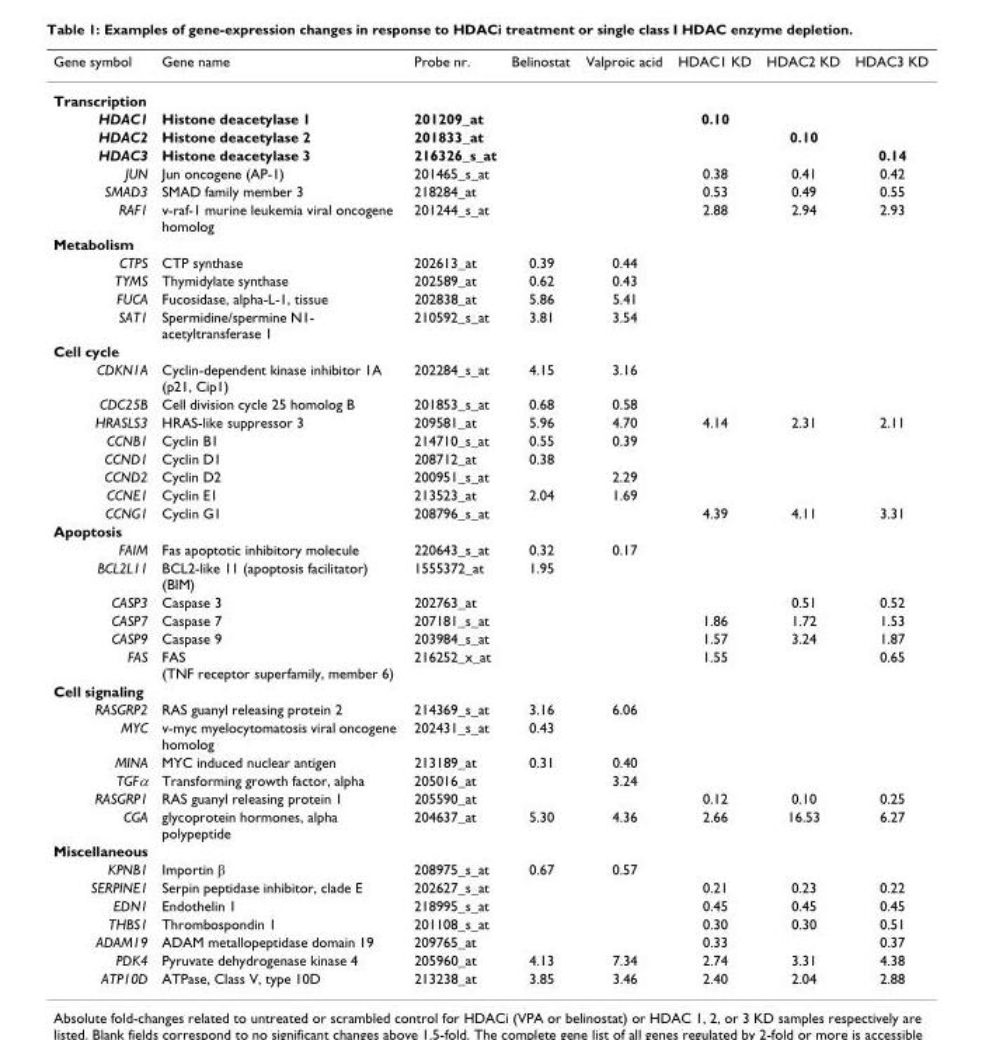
<table><thead><tr><td>Gene symbol</td><td>Gene name</td><td>Probe nr.</td><td>Belinostat</td><td>Valproic acid</td><td>HDAC1 KD</td><td>HDAC2 KD</td><td>HDAC3 KD</td></tr></thead><tbody><tr><td colspan="8">Transcription</td></tr><tr><td>HDAC1</td><td>Histone deacetylase 1</td><td>201209_at</td><td></td><td></td><td>0.10</td><td></td><td></td></tr><tr><td>HDAC2</td><td>Histone deacetylase 2</td><td>201833_at</td><td></td><td></td><td></td><td>0.10</td><td></td></tr><tr><td>HDAC3</td><td>Histone deacetylase 3</td><td>216326_s_at</td><td></td><td></td><td></td><td></td><td>0.14</td></tr><tr><td>JUN</td><td>Jun oncogene (AP-1)</td><td>201465_s_at</td><td></td><td></td><td>0.38</td><td>0.41</td><td>0.42</td></tr><tr><td>SMAD3</td><td>SMAD family member 3</td><td>218284_at</td><td></td><td></td><td>0.53</td><td>0.49</td><td>0.55</td></tr><tr><td>RAF1</td><td>v-raf-1 murine leukemia viral oncogene homolog</td><td>201244_s_at</td><td></td><td></td><td>2.88</td><td>2.94</td><td>2.93</td></tr><tr><td colspan="8">Metabolism</td></tr><tr><td>CTPS</td><td>CTP synthase</td><td>202613_at</td><td>0.39</td><td>0.44</td><td></td><td></td><td></td></tr><tr><td>TYMS</td><td>Thymidylate synthase</td><td>202589_at</td><td>0.62</td><td>0.43</td><td></td><td></td><td></td></tr><tr><td>FUCA</td><td>Fucosidase, alpha-L-1, tissue</td><td>202838_at</td><td>5.86</td><td>5.41</td><td></td><td></td><td></td></tr><tr><td>SAT1</td><td>Spermidine/spermine N1- acetyltransferase 1</td><td>210592_s_at</td><td>3.81</td><td>3.54</td><td></td><td></td><td></td></tr><tr><td colspan="8">Cell cycle</td></tr><tr><td>CDKN1A</td><td>Cyclin-dependent kinase inhibitor 1A (p21, Cip1)</td><td>202284_s_at</td><td>4.15</td><td>3.16</td><td></td><td></td><td></td></tr><tr><td>CDC25B</td><td>Cell division cycle 25 homolog B</td><td>201853_s_at</td><td>0.68</td><td>0.58</td><td></td><td></td><td></td></tr><tr><td>HRASLS3</td><td>HRAS-like suppressor 3</td><td>209581_at</td><td>5.96</td><td>4.70</td><td>4.14</td><td>2.31</td><td>2.11</td></tr><tr><td>CCNB1</td><td>Cyclin B1</td><td>214710_s_at</td><td>0.55</td><td>0.39</td><td></td><td></td><td></td></tr><tr><td>CCND1</td><td>Cyclin D1</td><td>208712_at</td><td>0.38</td><td></td><td></td><td></td><td></td></tr><tr><td>CCND2</td><td>Cyclin D2</td><td>200951_s_at</td><td></td><td>2.29</td><td></td><td></td><td></td></tr><tr><td>CCNE1</td><td>Cyclin E1</td><td>213523_at</td><td>2.04</td><td>1.69</td><td></td><td></td><td></td></tr><tr><td>CCNG1</td><td>Cyclin G1</td><td>208796_s_at</td><td></td><td></td><td>4.39</td><td>4.11</td><td>3.31</td></tr><tr><td colspan="8">Apoptosis</td></tr><tr><td>FAIM</td><td>Fas apoptotic inhibitory molecule</td><td>220643_s_at</td><td>0.32</td><td>0.17</td><td></td><td></td><td></td></tr><tr><td>BCL2L11</td><td>BCL2-like 11 (apoptosis facilitator) (BIM)</td><td>1555372_at</td><td>1.95</td><td></td><td></td><td></td><td></td></tr><tr><td>CASP3</td><td>Caspase 3</td><td>202763_at</td><td></td><td></td><td></td><td>0.51</td><td>0.52</td></tr><tr><td>CASP7</td><td>Caspase 7</td><td>207181_s_at</td><td></td><td></td><td>1.86</td><td>1.72</td><td>1.53</td></tr><tr><td>CASP9</td><td>Caspase 9</td><td>203984_s_at</td><td></td><td></td><td>1.57</td><td>3.24</td><td>1.87</td></tr><tr><td>FAS</td><td>FAS (TNF receptor superfamily, member 6)</td><td>216252_x_at</td><td></td><td></td><td>1.55</td><td></td><td>0.65</td></tr><tr><td colspan="8">Cell signaling</td></tr><tr><td>RASGRP2</td><td>RAS guanyl releasing protein 2</td><td>214369_s_at</td><td>3.16</td><td>6.06</td><td></td><td></td><td></td></tr><tr><td>MYC</td><td>v-myc myelocytomatosis viral oncogene homolog</td><td>202431_s_at</td><td>0.43</td><td></td><td></td><td></td><td></td></tr><tr><td>MINA</td><td>MYC induced nuclear antigen</td><td>213189_at</td><td>0.31</td><td>0.40</td><td></td><td></td><td></td></tr><tr><td>TGFα</td><td>Transforming growth factor, alpha</td><td>205016_at</td><td></td><td>3.24</td><td></td><td></td><td></td></tr><tr><td>RASGRP1</td><td>RAS guanyl releasing protein 1</td><td>205590_at</td><td></td><td></td><td>0.12</td><td>0.10</td><td>0.25</td></tr><tr><td>CGA</td><td>glycoprotein hormones, alpha polypeptide</td><td>204637_at</td><td>5.30</td><td>4.36</td><td>2.66</td><td>16.53</td><td>6.27</td></tr><tr><td colspan="8">Miscellaneous</td></tr><tr><td>KPNB1</td><td>Importin β</td><td>208975_s_at</td><td>0.67</td><td>0.57</td><td></td><td></td><td></td></tr><tr><td>SERPINE1</td><td>Serpin peptidase inhibitor, clade E</td><td>202627_s_at</td><td></td><td></td><td>0.21</td><td>0.23</td><td>0.22</td></tr><tr><td>EDN1</td><td>Endothelin 1</td><td>218995_s_at</td><td></td><td></td><td>0.45</td><td>0.45</td><td>0.45</td></tr><tr><td>THBS1</td><td>Thrombospondin 1</td><td>201108_s_at</td><td></td><td></td><td>0.30</td><td>0.30</td><td>0.51</td></tr><tr><td>ADAM19</td><td>ADAM metallopeptidase domain 19</td><td>209765_at</td><td></td><td></td><td>0.33</td><td></td><td>0.37</td></tr><tr><td>PDK4</td><td>Pyruvate dehydrogenase kinase 4</td><td>205960_at</td><td>4.13</td><td>7.34</td><td>2.74</td><td>3.31</td><td>4.38</td></tr><tr><td>ATP10D</td><td>ATPase, Class V, type 10D</td><td>213238_at</td><td>3.85</td><td>3.46</td><td>2.40</td><td>2.04</td><td>2.88</td></tr></tbody></table>